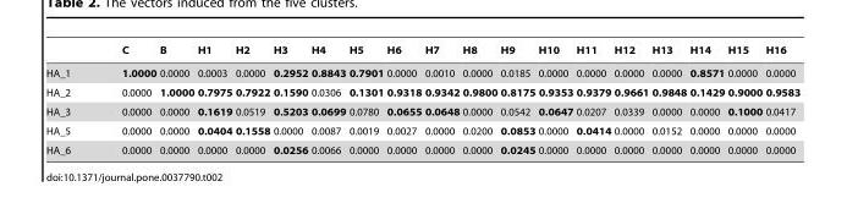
<table><thead><tr><td></td><td>C</td><td>B</td><td>H1</td><td>H2</td><td>H3</td><td>H4</td><td>H5</td><td>H6</td><td>H7</td><td>H8</td><td>H9</td><td>H10</td><td>H11</td><td>H12</td><td>H13</td><td>H14</td><td>H15</td><td>H16</td></tr></thead><tbody><tr><td>HA_1</td><td>1.0000</td><td>0.0000</td><td>0.0003</td><td>0.0000</td><td>0.2952</td><td>0.8843</td><td>0.7901</td><td>0.0000</td><td>0.0010</td><td>0.0000</td><td>0.0185</td><td>0.0000</td><td>0.0000</td><td>0.0000</td><td>0.0000</td><td>0.8571</td><td>0.0000</td><td>0.0000</td></tr><tr><td>HA_2</td><td>0.0000</td><td>1.0000</td><td>0.7975</td><td>0.7922</td><td>0.1590</td><td>0.0306</td><td>0.1301</td><td>0.9318</td><td>0.9342</td><td>0.9800</td><td>0.8175</td><td>0.9353</td><td>0.9379</td><td>0.9661</td><td>0.9848</td><td>0.1429</td><td>0.9000</td><td>0.9583</td></tr><tr><td>HA_3</td><td>0.0000</td><td>0.0000</td><td>0.1619</td><td>0.0519</td><td>0.5203</td><td>0.0699</td><td>0.0780</td><td>0.0655</td><td>0.0648</td><td>0.0000</td><td>0.0542</td><td>0.0647</td><td>0.0207</td><td>0.0339</td><td>0.0000</td><td>0.0000</td><td>0.1000</td><td>0.0417</td></tr><tr><td>HA_5</td><td>0.0000</td><td>0.0000</td><td>0.0404</td><td>0.1558</td><td>0.0000</td><td>0.0087</td><td>0.0019</td><td>0.0027</td><td>0.0000</td><td>0.0200</td><td>0.0853</td><td>0.0000</td><td>0.0414</td><td>0.0000</td><td>0.0152</td><td>0.0000</td><td>0.0000</td><td>0.0000</td></tr><tr><td>HA_6</td><td>0.0000</td><td>0.0000</td><td>0.0000</td><td>0.0000</td><td>0.0256</td><td>0.0066</td><td>0.0000</td><td>0.0000</td><td>0.0000</td><td>0.0000</td><td>0.0245</td><td>0.0000</td><td>0.0000</td><td>0.0000</td><td>0.0000</td><td>0.0000</td><td>0.0000</td><td>0.0000</td></tr></tbody></table>